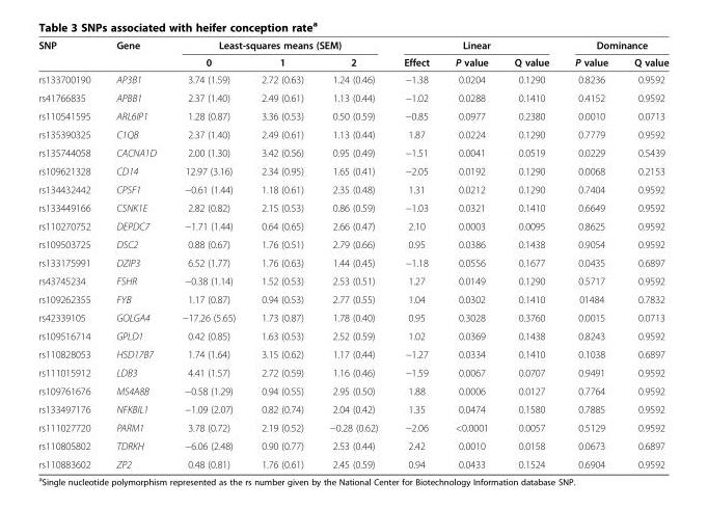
<table><thead><tr><td rowspan="2">SNP</td><td rowspan="2">Gene</td><td colspan="3">Least-squares means (SEM)</td><td colspan="3">Linear</td><td colspan="2">Dominance</td></tr><tr><td>0</td><td>1</td><td>2</td><td>Effect</td><td>P value</td><td>Q value</td><td>P value</td><td>Q value</td></tr></thead><tbody><tr><td>rs133700190</td><td>AP3B1</td><td>3.74 (1.59)</td><td>2.72 (0.63)</td><td>1.24 (0.46)</td><td>−1.38</td><td>0.0204</td><td>0.1290</td><td>0.8236</td><td>0.9592</td></tr><tr><td>rs41766835</td><td>APBB1</td><td>2.37 (1.40)</td><td>2.49 (0.61)</td><td>1.13 (0.44)</td><td>−1.02</td><td>0.0288</td><td>0.1410</td><td>0.4152</td><td>0.9592</td></tr><tr><td>rs110541595</td><td>ARL6IP1</td><td>1.28 (0.87)</td><td>3.36 (0.53)</td><td>0.50 (0.59)</td><td>−0.85</td><td>0.0977</td><td>0.2380</td><td>0.0010</td><td>0.0713</td></tr><tr><td>rs135390325</td><td>C1QB</td><td>2.37 (1.40)</td><td>2.49 (0.61)</td><td>1.13 (0.44)</td><td>1.87</td><td>0.0224</td><td>0.1290</td><td>0.7779</td><td>0.9592</td></tr><tr><td>rs135744058</td><td>CACNA1D</td><td>2.00 (1.30)</td><td>3.42 (0.56)</td><td>0.95 (0.49)</td><td>−1.51</td><td>0.0041</td><td>0.0519</td><td>0.0229</td><td>0.5439</td></tr><tr><td>rs109621328</td><td>CD14</td><td>12.97 (3.16)</td><td>2.34 (0.95)</td><td>1.65 (0.41)</td><td>−2.05</td><td>0.0192</td><td>0.1290</td><td>0.0068</td><td>0.2153</td></tr><tr><td>rs134432442</td><td>CPSF1</td><td>−0.61 (1.44)</td><td>1.18 (0.61)</td><td>2.35 (0.48)</td><td>1.31</td><td>0.0212</td><td>0.1290</td><td>0.7404</td><td>0.9592</td></tr><tr><td>rs133449166</td><td>CSNK1E</td><td>2.82 (0.82)</td><td>2.15 (0.53)</td><td>0.86 (0.59)</td><td>−1.03</td><td>0.0321</td><td>0.1410</td><td>0.6649</td><td>0.9592</td></tr><tr><td>rs110270752</td><td>DEPDC7</td><td>−1.71 (1.44)</td><td>0.64 (0.65)</td><td>2.66 (0.47)</td><td>2.10</td><td>0.0003</td><td>0.0095</td><td>0.8625</td><td>0.9592</td></tr><tr><td>rs109503725</td><td>DSC2</td><td>0.88 (0.67)</td><td>1.76 (0.51)</td><td>2.79 (0.66)</td><td>0.95</td><td>0.0386</td><td>0.1438</td><td>0.9054</td><td>0.9592</td></tr><tr><td>rs133175991</td><td>DZIP3</td><td>6.52 (1.77)</td><td>1.76 (0.63)</td><td>1.44 (0.45)</td><td>−1.18</td><td>0.0556</td><td>0.1677</td><td>0.0435</td><td>0.6897</td></tr><tr><td>rs43745234</td><td>FSHR</td><td>−0.38 (1.14)</td><td>1.52 (0.53)</td><td>2.53 (0.51)</td><td>1.27</td><td>0.0149</td><td>0.1290</td><td>0.5717</td><td>0.9592</td></tr><tr><td>rs109262355</td><td>FYB</td><td>1.17 (0.87)</td><td>0.94 (0.53)</td><td>2.77 (0.55)</td><td>1.04</td><td>0.0302</td><td>0.1410</td><td>01484</td><td>0.7832</td></tr><tr><td>rs42339105</td><td>GOLGA4</td><td>−17.26 (5.65)</td><td>1.73 (0.87)</td><td>1.78 (0.40)</td><td>0.95</td><td>0.3028</td><td>0.3760</td><td>0.0015</td><td>0.0713</td></tr><tr><td>rs109516714</td><td>GPLD1</td><td>0.42 (0.85)</td><td>1.63 (0.53)</td><td>2.52 (0.59)</td><td>1.02</td><td>0.0369</td><td>0.1438</td><td>0.8243</td><td>0.9592</td></tr><tr><td>rs110828053</td><td>HSD17B7</td><td>1.74 (1.64)</td><td>3.15 (0.62)</td><td>1.17 (0.44)</td><td>−1.27</td><td>0.0334</td><td>0.1410</td><td>0.1038</td><td>0.6897</td></tr><tr><td>rs111015912</td><td>LDB3</td><td>4.41 (1.57)</td><td>2.72 (0.59)</td><td>1.16 (0.46)</td><td>−1.59</td><td>0.0067</td><td>0.0707</td><td>0.9491</td><td>0.9592</td></tr><tr><td>rs109761676</td><td>MS4A8B</td><td>−0.58 (1.29)</td><td>0.94 (0.55)</td><td>2.95 (0.50)</td><td>1.88</td><td>0.0006</td><td>0.0127</td><td>0.7764</td><td>0.9592</td></tr><tr><td>rs133497176</td><td>NFKBIL1</td><td>−1.09 (2.07)</td><td>0.82 (0.74)</td><td>2.04 (0.42)</td><td>1.35</td><td>0.0474</td><td>0.1580</td><td>0.7885</td><td>0.9592</td></tr><tr><td>rs111027720</td><td>PARM1</td><td>3.78 (0.72)</td><td>2.19 (0.52)</td><td>−0.28 (0.62)</td><td>−2.06</td><td>&lt;0.0001</td><td>0.0057</td><td>0.5129</td><td>0.9592</td></tr><tr><td>rs110805802</td><td>TDRKH</td><td>−6.06 (2.48)</td><td>0.90 (0.77)</td><td>2.53 (0.44)</td><td>2.42</td><td>0.0010</td><td>0.0158</td><td>0.0673</td><td>0.6897</td></tr><tr><td>rs110883602</td><td>ZP2</td><td>0.48 (0.81)</td><td>1.76 (0.61)</td><td>2.45 (0.59)</td><td>0.94</td><td>0.0433</td><td>0.1524</td><td>0.6904</td><td>0.9592</td></tr></tbody></table>